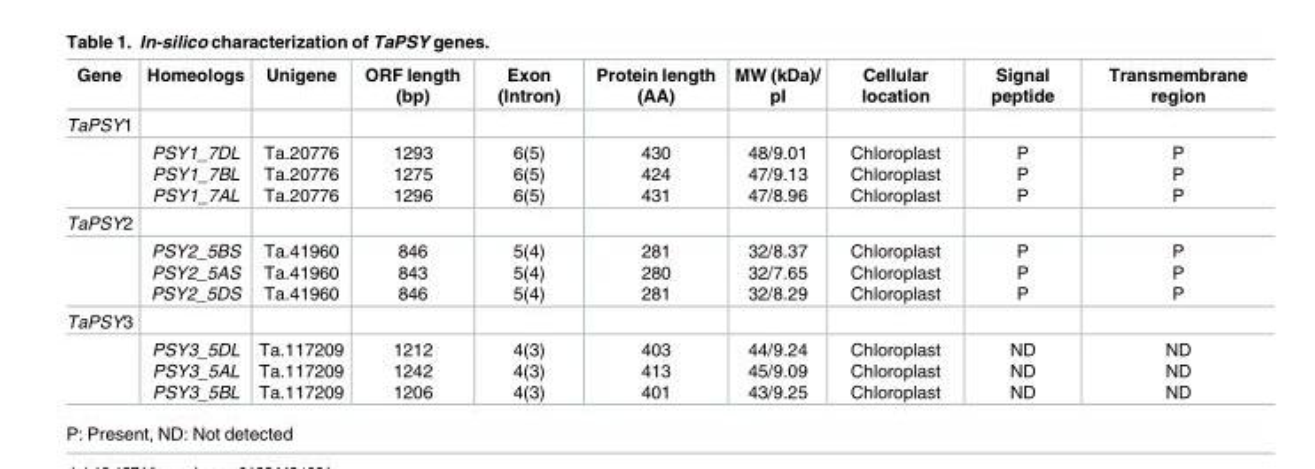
<table><thead><tr><td>Gene</td><td>Homeologs</td><td>Unigene</td><td>ORF length (bp)</td><td>Exon (Intron)</td><td>Protein length (AA)</td><td>MW (kDa)/ pI</td><td>Cellular location</td><td>Signal peptide</td><td>Transmembrane region</td></tr></thead><tbody><tr><td colspan="10">TaPSY1</td></tr><tr><td></td><td>PSY1_7DL PSY1_7BL PSY1_7AL</td><td>Ta.20776 Ta.20776 Ta.20776</td><td>1293 1275 1296</td><td>6(5) 6(5) 6(5)</td><td>430 424 431</td><td>48/9.01 47/9.13 47/8.96</td><td>Chloroplast Chloroplast Chloroplast</td><td>P P P</td><td>P P P</td></tr><tr><td colspan="10">TaPSY2</td></tr><tr><td></td><td>PSY2_5BS PSY2_5AS PSY2_5DS</td><td>Ta.41960 Ta.41960 Ta.41960</td><td>846 843 846</td><td>5(4) 5(4) 5(4)</td><td>281 280 281</td><td>32/8.37 32/7.65 32/8.29</td><td>Chloroplast Chloroplast Chloroplast</td><td>P P P</td><td>P P P</td></tr><tr><td colspan="10">TaPSY3</td></tr><tr><td></td><td>PSY3_5DL PSY3_5AL PSY3_5BL</td><td>Ta.117209 Ta.117209 Ta.117209</td><td>1212 1242 1206</td><td>4(3) 4(3) 4(3)</td><td>403 413 401</td><td>44/9.24 45/9.09 43/9.25</td><td>Chloroplast Chloroplast Chloroplast</td><td>ND ND ND</td><td>ND ND ND</td></tr></tbody></table>